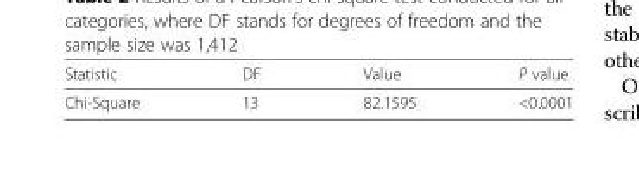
<table><thead><tr><td>Statistic</td><td>DF</td><td>Value</td><td>P value</td></tr></thead><tbody><tr><td>Chi-Square</td><td>13</td><td>82.1595</td><td>&lt;0.0001</td></tr></tbody></table>